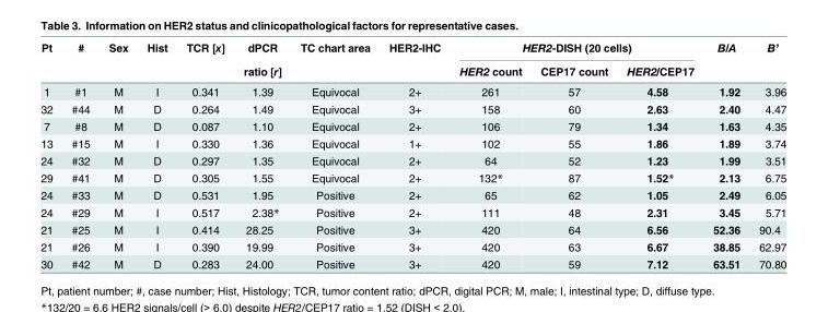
<table><thead><tr><td rowspan="2">Pt</td><td rowspan="2">#</td><td rowspan="2">Sex</td><td rowspan="2">Hist</td><td rowspan="2">TCR [x]</td><td rowspan="2">dPCR ratio [r]</td><td rowspan="2">TC chart area</td><td rowspan="2">HER2-IHC</td><td colspan="3">HER2-DISH (20 cells)</td><td rowspan="2">B/A</td><td rowspan="2">B’</td></tr><tr><td>HER2 count</td><td>CEP17 count</td><td>HER2/CEP17</td></tr></thead><tbody><tr><td>1</td><td>#1</td><td>M</td><td>I</td><td>0.341</td><td>1.39</td><td>Equivocal</td><td>2+</td><td>261</td><td>57</td><td>4.58</td><td>1.92</td><td>3.96</td></tr><tr><td>32</td><td>#44</td><td>M</td><td>D</td><td>0.264</td><td>1.49</td><td>Equivocal</td><td>3+</td><td>158</td><td>60</td><td>2.63</td><td>2.40</td><td>4.47</td></tr><tr><td>7</td><td>#8</td><td>M</td><td>D</td><td>0.087</td><td>1.10</td><td>Equivocal</td><td>2+</td><td>106</td><td>79</td><td>1.34</td><td>1.63</td><td>4.35</td></tr><tr><td>13</td><td>#15</td><td>M</td><td>I</td><td>0.330</td><td>1.36</td><td>Equivocal</td><td>1+</td><td>102</td><td>55</td><td>1.86</td><td>1.89</td><td>3.74</td></tr><tr><td>24</td><td>#32</td><td>M</td><td>D</td><td>0.297</td><td>1.35</td><td>Equivocal</td><td>2+</td><td>64</td><td>52</td><td>1.23</td><td>1.99</td><td>3.51</td></tr><tr><td>29</td><td>#41</td><td>M</td><td>D</td><td>0.305</td><td>1.55</td><td>Equivocal</td><td>2+</td><td>132*</td><td>87</td><td>1.52*</td><td>2.13</td><td>6.75</td></tr><tr><td>24</td><td>#33</td><td>M</td><td>D</td><td>0.531</td><td>1.95</td><td>Positive</td><td>2+</td><td>65</td><td>62</td><td>1.05</td><td>2.49</td><td>6.05</td></tr><tr><td>24</td><td>#29</td><td>M</td><td>I</td><td>0.517</td><td>2.38*</td><td>Positive</td><td>2+</td><td>111</td><td>48</td><td>2.31</td><td>3.45</td><td>5.71</td></tr><tr><td>21</td><td>#25</td><td>M</td><td>I</td><td>0.414</td><td>28.25</td><td>Positive</td><td>3+</td><td>420</td><td>64</td><td>6.56</td><td>52.36</td><td>90.4</td></tr><tr><td>21</td><td>#26</td><td>M</td><td>I</td><td>0.390</td><td>19.99</td><td>Positive</td><td>3+</td><td>420</td><td>63</td><td>6.67</td><td>38.85</td><td>62.97</td></tr><tr><td>30</td><td>#42</td><td>M</td><td>D</td><td>0.283</td><td>24.00</td><td>Positive</td><td>3+</td><td>420</td><td>59</td><td>7.12</td><td>63.51</td><td>70.80</td></tr></tbody></table>